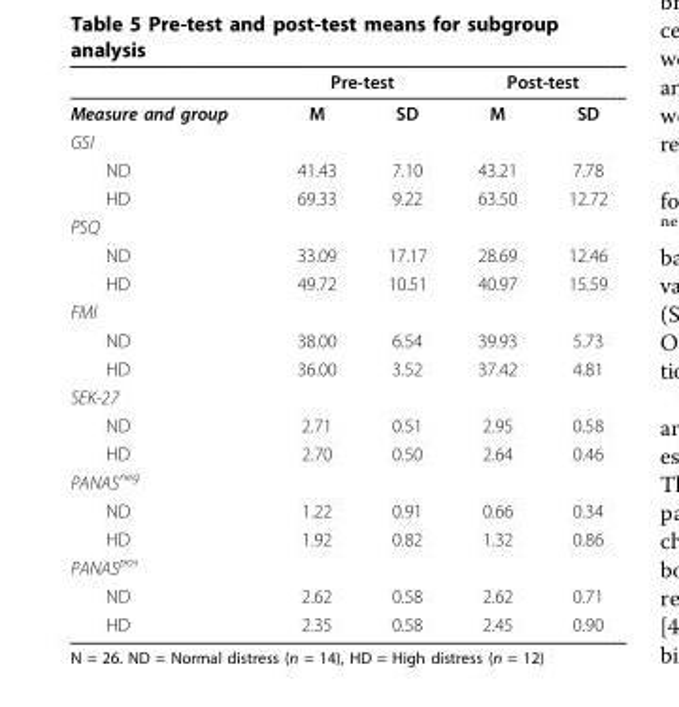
<table><thead><tr><td rowspan="2">Measure and group</td><td colspan="2">Pre-test</td><td colspan="2">Post-test</td></tr><tr><td>M</td><td>SD</td><td>M</td><td>SD</td></tr></thead><tbody><tr><td colspan="5">GSI</td></tr><tr><td>ND</td><td>41.43</td><td>7.10</td><td>43.21</td><td>7.78</td></tr><tr><td>HD</td><td>69.33</td><td>9.22</td><td>63.50</td><td>12.72</td></tr><tr><td colspan="5">PSQ</td></tr><tr><td>ND</td><td>33.09</td><td>17.17</td><td>28.69</td><td>12.46</td></tr><tr><td>HD</td><td>49.72</td><td>10.51</td><td>40.97</td><td>15.59</td></tr><tr><td colspan="5">FMI</td></tr><tr><td>ND</td><td>38.00</td><td>6.54</td><td>39.93</td><td>5.73</td></tr><tr><td>HD</td><td>36.00</td><td>3.52</td><td>37.42</td><td>4.81</td></tr><tr><td colspan="5">SEK-27</td></tr><tr><td>ND</td><td>2.71</td><td>0.51</td><td>2.95</td><td>0.58</td></tr><tr><td>HD</td><td>2.70</td><td>0.50</td><td>2.64</td><td>0.46</td></tr><tr><td colspan="5">PANAS<sup>neg</sup></td></tr><tr><td>ND</td><td>1.22</td><td>0.91</td><td>0.66</td><td>0.34</td></tr><tr><td>HD</td><td>1.92</td><td>0.82</td><td>1.32</td><td>0.86</td></tr><tr><td colspan="5">PANAS<sup>pos</sup></td></tr><tr><td>ND</td><td>2.62</td><td>0.58</td><td>2.62</td><td>0.71</td></tr><tr><td>HD</td><td>2.35</td><td>0.58</td><td>2.45</td><td>0.90</td></tr></tbody></table>